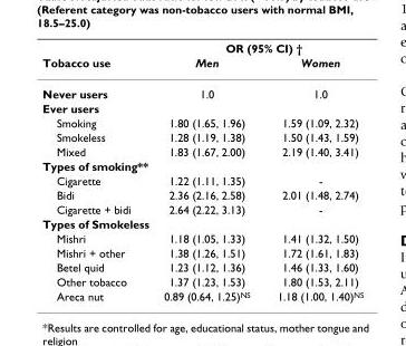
<table><thead><tr><td rowspan="2">Tobacco use</td><td colspan="2">OR (95% CI) †</td></tr><tr><td>Men</td><td>Women</td></tr></thead><tbody><tr><td>Never users</td><td>1.0</td><td>1.0</td></tr><tr><td colspan="3">Ever users</td></tr><tr><td>Smoking</td><td>1.80 (1.65, 1.96)</td><td>1.59 (1.09, 2.32)</td></tr><tr><td>Smokeless</td><td>1.28 (1.19, 1.38)</td><td>1.50 (1.43, 1.59)</td></tr><tr><td>Mixed</td><td>1.83 (1.67, 2.00)</td><td>2.19 (1.40, 3.41)</td></tr><tr><td colspan="3">Types of smoking**</td></tr><tr><td>Cigarette</td><td>1.22 (1.11, 1.35)</td><td>-</td></tr><tr><td>Bidi</td><td>2.36 (2.16, 2.58)</td><td>2.01 (1.48, 2.74)</td></tr><tr><td>Cigarette + bidi</td><td>2.64 (2.22, 3.13)</td><td>-</td></tr><tr><td colspan="3">Types of Smokeless</td></tr><tr><td>Mishri</td><td>1.18 (1.05, 1.33)</td><td>1.41 (1.32, 1.50)</td></tr><tr><td>Mishri + other</td><td>1.38 (1.26, 1.51)</td><td>1.72 (1.61, 1.83)</td></tr><tr><td>Betel quid</td><td>1.23 (1.12, 1.36)</td><td>1.46 (1.33, 1.60)</td></tr><tr><td>Other tobacco</td><td>1.37 (1.23, 1.53)</td><td>1.80 (1.53, 2.11)</td></tr><tr><td>Areca nut</td><td>0.89 (0.64, 1.25)NS</td><td>1.18 (1.00, 1.40)NS</td></tr></tbody></table>